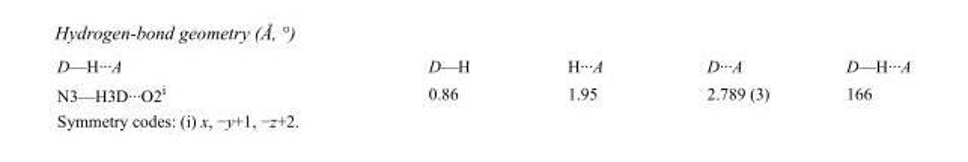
<table><tbody><tr><td>D—H···A</td><td>D—H</td><td>H···A</td><td>D···A</td><td>D—H···A</td></tr><tr><td>N3—H3D···O2<sup>i</sup></td><td>0.86</td><td>1.95</td><td>2.789 (3)</td><td>166</td></tr></tbody></table>